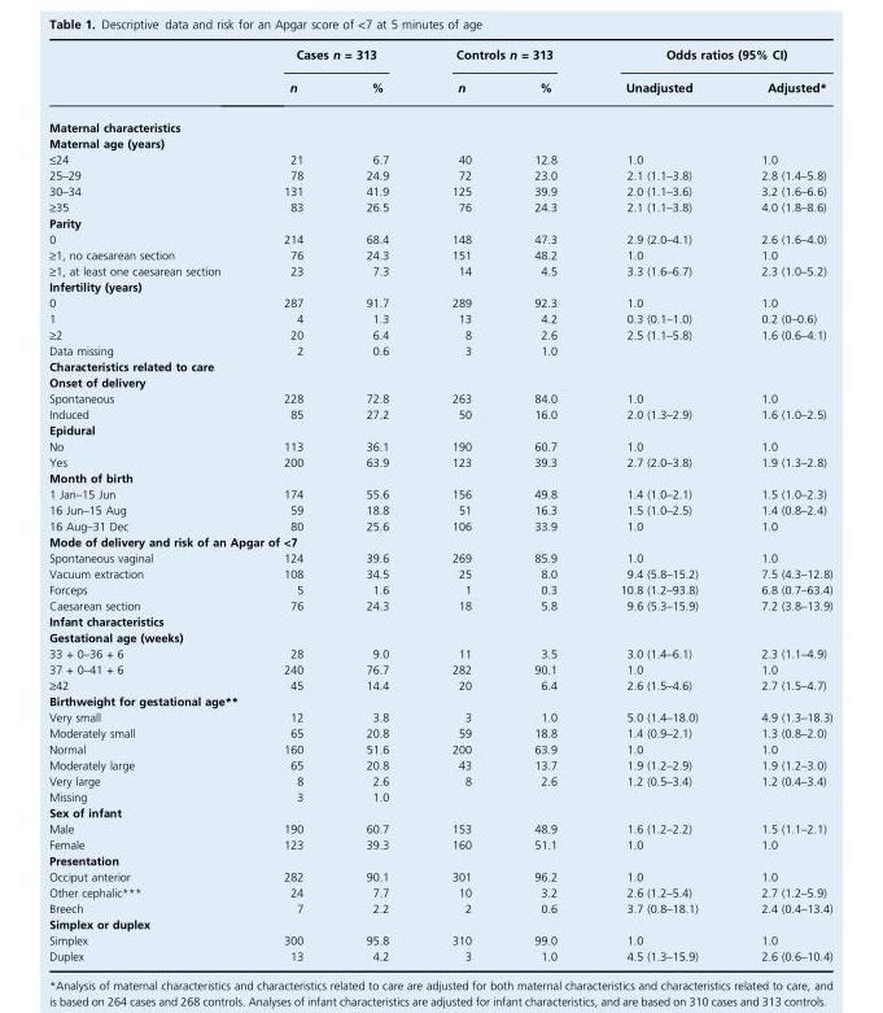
<table><thead><tr><td rowspan="2"></td><td colspan="2">Cases n = 313</td><td colspan="2">Controls n = 313</td><td colspan="2">Odds ratios (95% CI)</td></tr><tr><td>n</td><td>%</td><td>n</td><td>%</td><td>Unadjusted</td><td>Adjusted*</td></tr></thead><tbody><tr><td colspan="7">Maternal characteristics</td></tr><tr><td colspan="7">Maternal age (years)</td></tr><tr><td>≤24</td><td>21</td><td>6.7</td><td>40</td><td>12.8</td><td>1.0</td><td>1.0</td></tr><tr><td>25–29</td><td>78</td><td>24.9</td><td>72</td><td>23.0</td><td>2.1 (1.1–3.8)</td><td>2.8 (1.4–5.8)</td></tr><tr><td>30–34</td><td>131</td><td>41.9</td><td>125</td><td>39.9</td><td>2.0 (1.1–3.6)</td><td>3.2 (1.6–6.6)</td></tr><tr><td>‡35</td><td>83</td><td>26.5</td><td>76</td><td>24.3</td><td>2.1 (1.1–3.8)</td><td>4.0 (1.8–8.6)</td></tr><tr><td colspan="7">Parity</td></tr><tr><td>0</td><td>214</td><td>68.4</td><td>148</td><td>47.3</td><td>2.9 (2.0–4.1)</td><td>2.6 (1.6–4.0)</td></tr><tr><td>‡1, no caesarean section</td><td>76</td><td>24.3</td><td>151</td><td>48.2</td><td>1.0</td><td>1.0</td></tr><tr><td>‡1, at least one caesarean section</td><td>23</td><td>7.3</td><td>14</td><td>4.5</td><td>3.3 (1.6–6.7)</td><td>2.3 (1.0–5.2)</td></tr><tr><td colspan="7">Infertility (years)</td></tr><tr><td>0</td><td>287</td><td>91.7</td><td>289</td><td>92.3</td><td>1.0</td><td>1.0</td></tr><tr><td>1</td><td>4</td><td>1.3</td><td>13</td><td>4.2</td><td>0.3 (0.1–1.0)</td><td>0.2 (0–0.6)</td></tr><tr><td>‡2</td><td>20</td><td>6.4</td><td>8</td><td>2.6</td><td>2.5 (1.1–5.8)</td><td>1.6 (0.6–4.1)</td></tr><tr><td>Data missing</td><td>2</td><td>0.6</td><td>3</td><td>1.0</td><td></td><td></td></tr><tr><td colspan="7">Characteristics related to care</td></tr><tr><td colspan="7">Onset of delivery</td></tr><tr><td>Spontaneous</td><td>228</td><td>72.8</td><td>263</td><td>84.0</td><td>1.0</td><td>1.0</td></tr><tr><td>Induced</td><td>85</td><td>27.2</td><td>50</td><td>16.0</td><td>2.0 (1.3–2.9)</td><td>1.6 (1.0–2.5)</td></tr><tr><td colspan="7">Epidural</td></tr><tr><td>No</td><td>113</td><td>36.1</td><td>190</td><td>60.7</td><td>1.0</td><td>1.0</td></tr><tr><td>Yes</td><td>200</td><td>63.9</td><td>123</td><td>39.3</td><td>2.7 (2.0–3.8)</td><td>1.9 (1.3–2.8)</td></tr><tr><td colspan="7">Month of birth</td></tr><tr><td>1 Jan–15 Jun</td><td>174</td><td>55.6</td><td>156</td><td>49.8</td><td>1.4 (1.0–2.1)</td><td>1.5 (1.0–2.3)</td></tr><tr><td>16 Jun–15 Aug</td><td>59</td><td>18.8</td><td>51</td><td>16.3</td><td>1.5 (1.0–2.5)</td><td>1.4 (0.8–2.4)</td></tr><tr><td>16 Aug–31 Dec</td><td>80</td><td>25.6</td><td>106</td><td>33.9</td><td>1.0</td><td>1.0</td></tr><tr><td colspan="7">Mode of delivery and risk of an Apgar of &lt;7</td></tr><tr><td>Spontaneous vaginal</td><td>124</td><td>39.6</td><td>269</td><td>85.9</td><td>1.0</td><td>1.0</td></tr><tr><td>Vacuum extraction</td><td>108</td><td>34.5</td><td>25</td><td>8.0</td><td>9.4 (5.8–15.2)</td><td>7.5 (4.3–12.8)</td></tr><tr><td>Forceps</td><td>5</td><td>1.6</td><td>1</td><td>0.3</td><td>10.8 (1.2–93.8)</td><td>6.8 (0.7–63.4)</td></tr><tr><td>Caesarean section</td><td>76</td><td>24.3</td><td>18</td><td>5.8</td><td>9.6 (5.3–15.9)</td><td>7.2 (3.8–13.9)</td></tr><tr><td colspan="7">Infant characteristics</td></tr><tr><td colspan="7">Gestational age (weeks)</td></tr><tr><td>33 + 0–36 + 6</td><td>28</td><td>9.0</td><td>11</td><td>3.5</td><td>3.0 (1.4–6.1)</td><td>2.3 (1.1–4.9)</td></tr><tr><td>37 + 0–41 + 6</td><td>240</td><td>76.7</td><td>282</td><td>90.1</td><td>1.0</td><td>1.0</td></tr><tr><td>‡42</td><td>45</td><td>14.4</td><td>20</td><td>6.4</td><td>2.6 (1.5–4.6)</td><td>2.7 (1.5–4.7)</td></tr><tr><td colspan="7">Birthweight for gestational age**</td></tr><tr><td>Very small</td><td>12</td><td>3.8</td><td>3</td><td>1.0</td><td>5.0 (1.4–18.0)</td><td>4.9 (1.3–18.3)</td></tr><tr><td>Moderately small</td><td>65</td><td>20.8</td><td>59</td><td>18.8</td><td>1.4 (0.9–2.1)</td><td>1.3 (0.8–2.0)</td></tr><tr><td>Normal</td><td>160</td><td>51.6</td><td>200</td><td>63.9</td><td>1.0</td><td>1.0</td></tr><tr><td>Moderately large</td><td>65</td><td>20.8</td><td>43</td><td>13.7</td><td>1.9 (1.2–2.9)</td><td>1.9 (1.2–3.0)</td></tr><tr><td>Very large</td><td>8</td><td>2.6</td><td>8</td><td>2.6</td><td>1.2 (0.5–3.4)</td><td>1.2 (0.4–3.4)</td></tr><tr><td>Missing</td><td>3</td><td>1.0</td><td></td><td></td><td></td><td></td></tr><tr><td colspan="7">Sex of infant</td></tr><tr><td>Male</td><td>190</td><td>60.7</td><td>153</td><td>48.9</td><td>1.6 (1.2–2.2)</td><td>1.5 (1.1–2.1)</td></tr><tr><td>Female</td><td>123</td><td>39.3</td><td>160</td><td>51.1</td><td>1.0</td><td>1.0</td></tr><tr><td colspan="7">Presentation</td></tr><tr><td>Occiput anterior</td><td>282</td><td>90.1</td><td>301</td><td>96.2</td><td>1.0</td><td>1.0</td></tr><tr><td>Other cephalic***</td><td>24</td><td>7.7</td><td>10</td><td>3.2</td><td>2.6 (1.2–5.4)</td><td>2.7 (1.2–5.9)</td></tr><tr><td>Breech</td><td>7</td><td>2.2</td><td>2</td><td>0.6</td><td>3.7 (0.8–18.1)</td><td>2.4 (0.4–13.4)</td></tr><tr><td colspan="7">Simplex or duplex</td></tr><tr><td>Simplex</td><td>300</td><td>95.8</td><td>310</td><td>99.0</td><td>1.0</td><td>1.0</td></tr><tr><td>Duplex</td><td>13</td><td>4.2</td><td>3</td><td>1.0</td><td>4.5 (1.3–15.9)</td><td>2.6 (0.6–10.4)</td></tr></tbody></table>